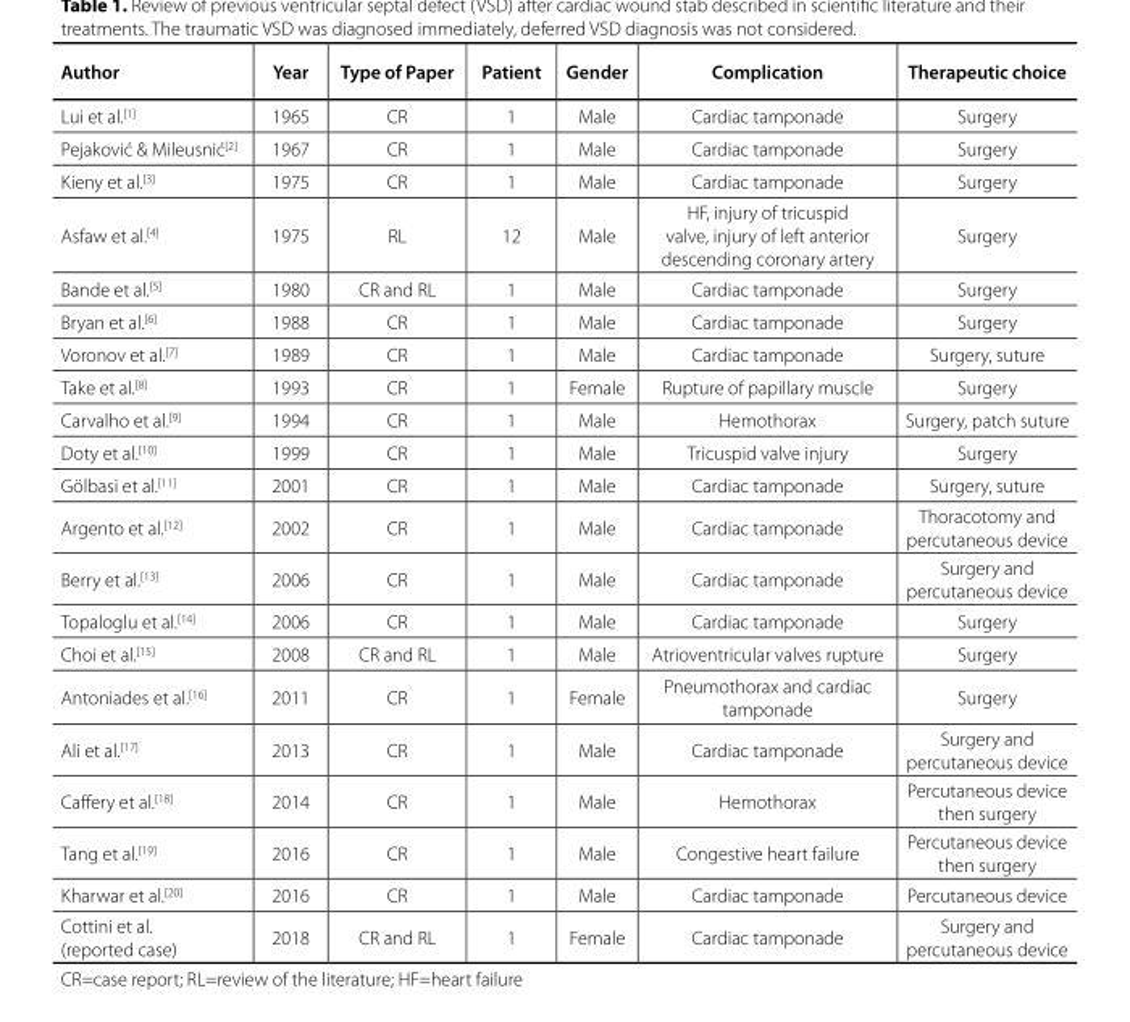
<table><thead><tr><td>Author</td><td>Year</td><td>Type of Paper</td><td>Patient</td><td>Gender</td><td>Complication</td><td>Therapeutic choice</td></tr></thead><tbody><tr><td>Lui et al.<sup>[1]</sup></td><td>1965</td><td>CR</td><td>1</td><td>Male</td><td>Cardiac tamponade</td><td>Surgery</td></tr><tr><td>Pejaković &amp; Mileusnić<sup>[2]</sup></td><td>1967</td><td>CR</td><td>1</td><td>Male</td><td>Cardiac tamponade</td><td>Surgery</td></tr><tr><td>Kieny et al.<sup>[3]</sup></td><td>1975</td><td>CR</td><td>1</td><td>Male</td><td>Cardiac tamponade</td><td>Surgery</td></tr><tr><td>Asfaw et al.<sup>[4]</sup></td><td>1975</td><td>RL</td><td>12</td><td>Male</td><td>HF, injury of tricuspid valve, injury of left anterior descending coronary artery</td><td>Surgery</td></tr><tr><td>Bande et al.<sup>[5]</sup></td><td>1980</td><td>CR and RL</td><td>1</td><td>Male</td><td>Cardiac tamponade</td><td>Surgery</td></tr><tr><td>Bryan et al.<sup>[6]</sup></td><td>1988</td><td>CR</td><td>1</td><td>Male</td><td>Cardiac tamponade</td><td>Surgery</td></tr><tr><td>Voronov et al.<sup>[7]</sup></td><td>1989</td><td>CR</td><td>1</td><td>Male</td><td>Cardiac tamponade</td><td>Surgery, suture</td></tr><tr><td>Take et al.<sup>[8]</sup></td><td>1993</td><td>CR</td><td>1</td><td>Female</td><td>Rupture of papillary muscle</td><td>Surgery</td></tr><tr><td>Carvalho et al.<sup>[9]</sup></td><td>1994</td><td>CR</td><td>1</td><td>Male</td><td>Hemothorax</td><td>Surgery, patch suture</td></tr><tr><td>Doty et al.<sup>[10]</sup></td><td>1999</td><td>CR</td><td>1</td><td>Male</td><td>Tricuspid valve injury</td><td>Surgery</td></tr><tr><td>Gölbasi et al.<sup>[11]</sup></td><td>2001</td><td>CR</td><td>1</td><td>Male</td><td>Cardiac tamponade</td><td>Surgery, suture</td></tr><tr><td>Argento et al.<sup>[12]</sup></td><td>2002</td><td>CR</td><td>1</td><td>Male</td><td>Cardiac tamponade</td><td>Thoracotomy and percutaneous device</td></tr><tr><td>Berry et al.<sup>[13]</sup></td><td>2006</td><td>CR</td><td>1</td><td>Male</td><td>Cardiac tamponade</td><td>Surgery and percutaneous device</td></tr><tr><td>Topaloglu et al.<sup>[14]</sup></td><td>2006</td><td>CR</td><td>1</td><td>Male</td><td>Cardiac tamponade</td><td>Surgery</td></tr><tr><td>Choi et al.<sup>[15]</sup></td><td>2008</td><td>CR and RL</td><td>1</td><td>Male</td><td>Atrioventricular valves rupture</td><td>Surgery</td></tr><tr><td>Antoniades et al.<sup>[16]</sup></td><td>2011</td><td>CR</td><td>1</td><td>Female</td><td>Pneumothorax and cardiac tamponade</td><td>Surgery</td></tr><tr><td>Ali et al.<sup>[17]</sup></td><td>2013</td><td>CR</td><td>1</td><td>Male</td><td>Cardiac tamponade</td><td>Surgery and percutaneous device</td></tr><tr><td>Caffery et al.<sup>[18]</sup></td><td>2014</td><td>CR</td><td>1</td><td>Male</td><td>Hemothorax</td><td>Percutaneous device then surgery</td></tr><tr><td>Tang et al.<sup>[19]</sup></td><td>2016</td><td>CR</td><td>1</td><td>Male</td><td>Congestive heart failure</td><td>Percutaneous device then surgery</td></tr><tr><td>Kharwar et al.<sup>[20]</sup></td><td>2016</td><td>CR</td><td>1</td><td>Male</td><td>Cardiac tamponade</td><td>Percutaneous device</td></tr><tr><td>Cottini et al. (reported case)</td><td>2018</td><td>CR and RL</td><td>1</td><td>Female</td><td>Cardiac tamponade</td><td>Surgery and percutaneous device</td></tr></tbody></table>